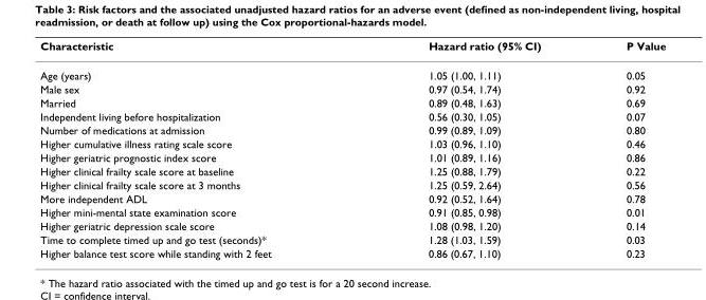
<table><thead><tr><td>Characteristic</td><td>Hazard ratio (95% CI)</td><td>P Value</td></tr></thead><tbody><tr><td>Age (years)</td><td>1.05 (1.00, 1.11)</td><td>0.05</td></tr><tr><td>Male sex</td><td>0.97 (0.54, 1.74)</td><td>0.92</td></tr><tr><td>Married</td><td>0.89 (0.48, 1.63)</td><td>0.69</td></tr><tr><td>Independent living before hospitalization</td><td>0.56 (0.30, 1.05)</td><td>0.07</td></tr><tr><td>Number of medications at admission</td><td>0.99 (0.89, 1.09)</td><td>0.80</td></tr><tr><td>Higher cumulative illness rating scale score</td><td>1.03 (0.96, 1.10)</td><td>0.46</td></tr><tr><td>Higher geriatric prognostic index score</td><td>1.01 (0.89, 1.16)</td><td>0.86</td></tr><tr><td>Higher clinical frailty scale score at baseline</td><td>1.25 (0.88, 1.79)</td><td>0.22</td></tr><tr><td>Higher clinical frailty scale score at 3 months</td><td>1.25 (0.59, 2.64)</td><td>0.56</td></tr><tr><td>More independent ADL</td><td>0.92 (0.52, 1.64)</td><td>0.78</td></tr><tr><td>Higher mini-mental state examination score</td><td>0.91 (0.85, 0.98)</td><td>0.01</td></tr><tr><td>Higher geriatric depression scale score</td><td>1.08 (0.98, 1.20)</td><td>0.14</td></tr><tr><td>Time to complete timed up and go test (seconds)*</td><td>1.28 (1.03, 1.59)</td><td>0.03</td></tr><tr><td>Higher balance test score while standing with 2 feet</td><td>0.86 (0.67, 1.10)</td><td>0.23</td></tr></tbody></table>